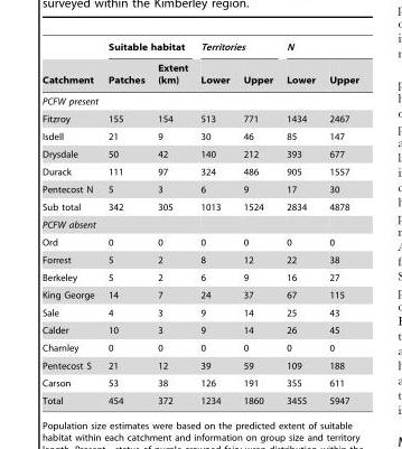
<table><thead><tr><td rowspan="2">Catchment</td><td colspan="2">Suitable habitat</td><td colspan="2">Territories</td><td colspan="2">N</td></tr><tr><td>Patches</td><td>Extent (km)</td><td>Lower</td><td>Upper</td><td>Lower</td><td>Upper</td></tr></thead><tbody><tr><td colspan="7">PCFW present</td></tr><tr><td>Fitzroy</td><td>155</td><td>154</td><td>513</td><td>771</td><td>1434</td><td>2467</td></tr><tr><td>Isdell</td><td>21</td><td>9</td><td>30</td><td>46</td><td>85</td><td>147</td></tr><tr><td>Drysdale</td><td>50</td><td>42</td><td>140</td><td>212</td><td>393</td><td>677</td></tr><tr><td>Durack</td><td>111</td><td>97</td><td>324</td><td>486</td><td>905</td><td>1557</td></tr><tr><td>Pentecost N</td><td>5</td><td>3</td><td>6</td><td>9</td><td>17</td><td>30</td></tr><tr><td>Sub total</td><td>342</td><td>305</td><td>1013</td><td>1524</td><td>2834</td><td>4878</td></tr><tr><td colspan="7">PCFW absent</td></tr><tr><td>Ord</td><td>0</td><td>0</td><td>0</td><td>0</td><td>0</td><td>0</td></tr><tr><td>Forrest</td><td>5</td><td>2</td><td>8</td><td>12</td><td>22</td><td>38</td></tr><tr><td>Berkeley</td><td>5</td><td>2</td><td>6</td><td>9</td><td>16</td><td>27</td></tr><tr><td>King George</td><td>14</td><td>7</td><td>24</td><td>37</td><td>67</td><td>115</td></tr><tr><td>Sale</td><td>4</td><td>3</td><td>9</td><td>14</td><td>25</td><td>43</td></tr><tr><td>Calder</td><td>10</td><td>3</td><td>9</td><td>14</td><td>26</td><td>45</td></tr><tr><td>Charnley</td><td>0</td><td>0</td><td>0</td><td>0</td><td>0</td><td>0</td></tr><tr><td>Pentecost S</td><td>21</td><td>12</td><td>39</td><td>59</td><td>109</td><td>188</td></tr><tr><td>Carson</td><td>53</td><td>38</td><td>126</td><td>191</td><td>355</td><td>611</td></tr><tr><td>Total</td><td>454</td><td>372</td><td>1234</td><td>1860</td><td>3455</td><td>5947</td></tr></tbody></table>